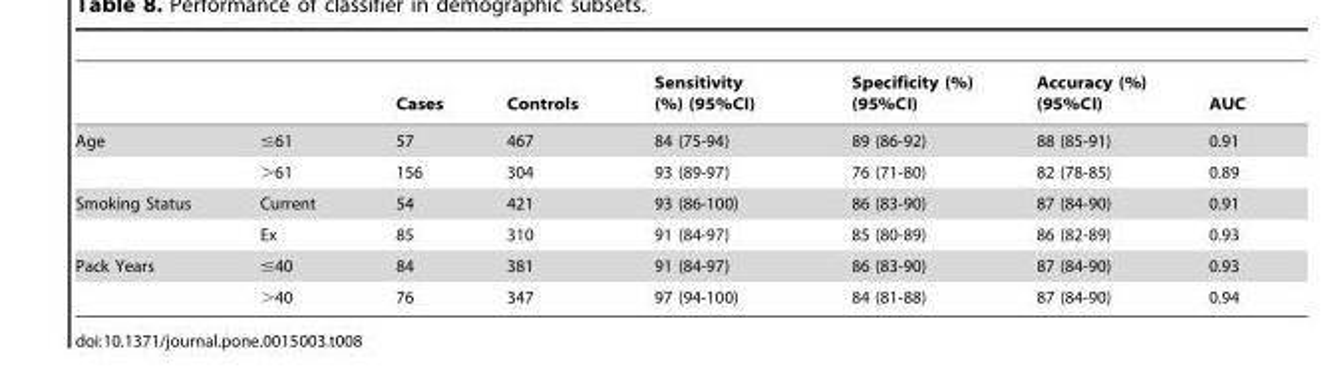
<table><thead><tr><td></td><td></td><td>Cases</td><td>Controls</td><td>Sensitivity (%) (95%CI)</td><td>Specificity (%) (95%CI)</td><td>Accuracy (%) (95%CI)</td><td>AUC</td></tr></thead><tbody><tr><td rowspan="2">Age</td><td>≤61</td><td>57</td><td>467</td><td>84 (75-94)</td><td>89 (86-92)</td><td>88 (85-91)</td><td>0.91</td></tr><tr><td>&gt;61</td><td>156</td><td>304</td><td>93 (89-97)</td><td>76 (71-80)</td><td>82 (78-85)</td><td>0.89</td></tr><tr><td rowspan="2">Smoking Status</td><td>Current</td><td>54</td><td>421</td><td>93 (86-100)</td><td>86 (83-90)</td><td>87 (84-90)</td><td>0.91</td></tr><tr><td>Ex</td><td>85</td><td>310</td><td>91 (84-97)</td><td>85 (80-89)</td><td>86 (82-89)</td><td>0.93</td></tr><tr><td rowspan="2">Pack Years</td><td>≤40</td><td>84</td><td>381</td><td>91 (84-97)</td><td>86 (83-90)</td><td>87 (84-90)</td><td>0.93</td></tr><tr><td>&gt;40</td><td>76</td><td>347</td><td>97 (94-100)</td><td>84 (81-88)</td><td>87 (84-90)</td><td>0.94</td></tr></tbody></table>